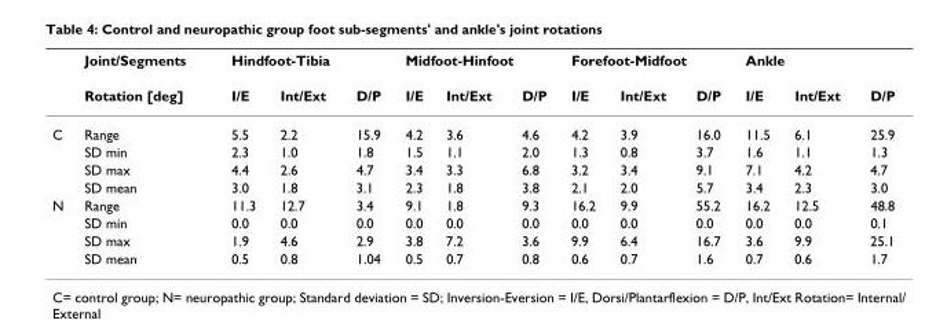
<table><thead><tr><td rowspan="2"></td><td rowspan="2">Joint/Segments Rotation [deg]</td><td colspan="3">Hindfoot-Tibia</td><td colspan="3">Midfoot-Hinfoot</td><td colspan="3">Forefoot-Midfoot</td><td colspan="3">Ankle</td></tr><tr><td>I/E</td><td>Int/Ext</td><td>D/P</td><td>I/E</td><td>Int/Ext</td><td>D/P</td><td>I/E</td><td>Int/Ext</td><td>D/P</td><td>I/E</td><td>Int/Ext</td><td>D/P</td></tr></thead><tbody><tr><td rowspan="4">C</td><td>Range</td><td>5.5</td><td>2.2</td><td>15.9</td><td>4.2</td><td>3.6</td><td>4.6</td><td>4.2</td><td>3.9</td><td>16.0</td><td>11.5</td><td>6.1</td><td>25.9</td></tr><tr><td>SD min</td><td>2.3</td><td>1.0</td><td>1.8</td><td>1.5</td><td>1.1</td><td>2.0</td><td>1.3</td><td>0.8</td><td>3.7</td><td>1.6</td><td>1.1</td><td>1.3</td></tr><tr><td>SD max</td><td>4.4</td><td>2.6</td><td>4.7</td><td>3.4</td><td>3.3</td><td>6.8</td><td>3.2</td><td>3.4</td><td>9.1</td><td>7.1</td><td>4.2</td><td>4.7</td></tr><tr><td>SD mean</td><td>3.0</td><td>1.8</td><td>3.1</td><td>2.3</td><td>1.8</td><td>3.8</td><td>2.1</td><td>2.0</td><td>5.7</td><td>3.4</td><td>2.3</td><td>3.0</td></tr><tr><td rowspan="4">N</td><td>Range</td><td>11.3</td><td>12.7</td><td>3.4</td><td>9.1</td><td>1.8</td><td>9.3</td><td>16.2</td><td>9.9</td><td>55.2</td><td>16.2</td><td>12.5</td><td>48.8</td></tr><tr><td>SD min</td><td>0.0</td><td>0.0</td><td>0.0</td><td>0.0</td><td>0.0</td><td>0.0</td><td>0.0</td><td>0.0</td><td>0.0</td><td>0.0</td><td>0.0</td><td>0.1</td></tr><tr><td>SD max</td><td>1.9</td><td>4.6</td><td>2.9</td><td>3.8</td><td>7.2</td><td>3.6</td><td>9.9</td><td>6.4</td><td>16.7</td><td>3.6</td><td>9.9</td><td>25.1</td></tr><tr><td>SD mean</td><td>0.5</td><td>0.8</td><td>1.04</td><td>0.5</td><td>0.7</td><td>0.8</td><td>0.6</td><td>0.7</td><td>1.6</td><td>0.7</td><td>0.6</td><td>1.7</td></tr></tbody></table>